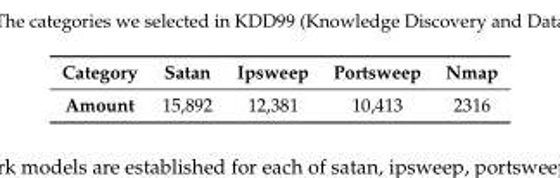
<table><thead><tr><td>Category</td><td>Satan</td><td>Ipsweep</td><td>Portsweep</td><td>Nmap</td></tr></thead><tbody><tr><td>Amount</td><td>15,892</td><td>12,381</td><td>10,413</td><td>2316</td></tr></tbody></table>